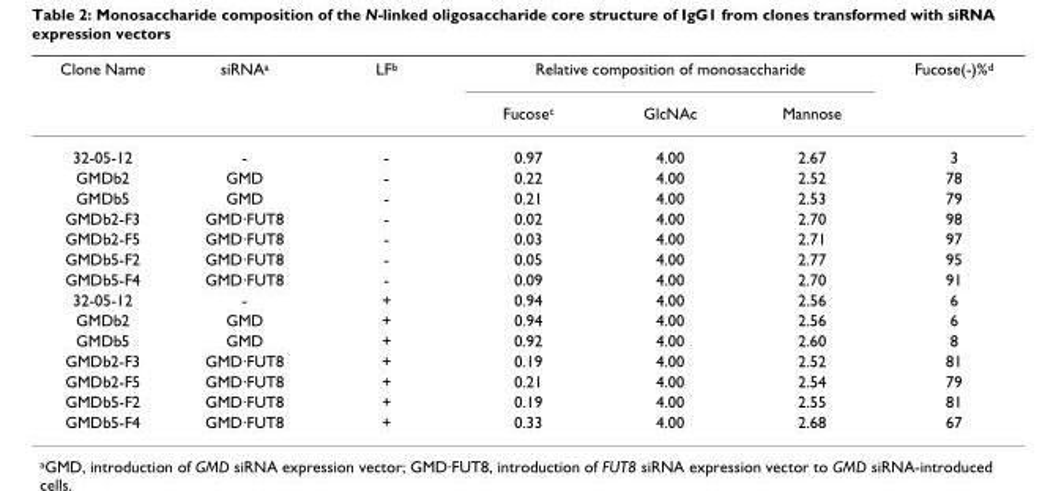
<table><thead><tr><td rowspan="2">Clone Name</td><td rowspan="2">siRNA<sup>a</sup></td><td rowspan="2">LF<sup>b</sup></td><td colspan="3">Relative composition of monosaccharide</td><td rowspan="2">Fucose(-)%<sup>d</sup></td></tr><tr><td>Fucose<sup>c</sup></td><td>GlcNAc</td><td>Mannose</td></tr></thead><tbody><tr><td>32-05-12</td><td>-</td><td>-</td><td>0.97</td><td>4.00</td><td>2.67</td><td>3</td></tr><tr><td>GMDb2</td><td>GMD</td><td>-</td><td>0.22</td><td>4.00</td><td>2.52</td><td>78</td></tr><tr><td>GMDb5</td><td>GMD</td><td>-</td><td>0.21</td><td>4.00</td><td>2.53</td><td>79</td></tr><tr><td>GMDb2-F3</td><td>GMD·FUT8</td><td>-</td><td>0.02</td><td>4.00</td><td>2.70</td><td>98</td></tr><tr><td>GMDb2-F5</td><td>GMD·FUT8</td><td>-</td><td>0.03</td><td>4.00</td><td>2.71</td><td>97</td></tr><tr><td>GMDb5-F2</td><td>GMD·FUT8</td><td>-</td><td>0.05</td><td>4.00</td><td>2.77</td><td>95</td></tr><tr><td>GMDb5-F4</td><td>GMD·FUT8</td><td>-</td><td>0.09</td><td>4.00</td><td>2.70</td><td>91</td></tr><tr><td>32-05-12</td><td>-</td><td>+</td><td>0.94</td><td>4.00</td><td>2.56</td><td>6</td></tr><tr><td>GMDb2</td><td>GMD</td><td>+</td><td>0.94</td><td>4.00</td><td>2.56</td><td>6</td></tr><tr><td>GMDb5</td><td>GMD</td><td>+</td><td>0.92</td><td>4.00</td><td>2.60</td><td>8</td></tr><tr><td>GMDb2-F3</td><td>GMD·FUT8</td><td>+</td><td>0.19</td><td>4.00</td><td>2.52</td><td>81</td></tr><tr><td>GMDb2-F5</td><td>GMD·FUT8</td><td>+</td><td>0.21</td><td>4.00</td><td>2.54</td><td>79</td></tr><tr><td>GMDb5-F2</td><td>GMD·FUT8</td><td>+</td><td>0.19</td><td>4.00</td><td>2.55</td><td>81</td></tr><tr><td>GMDb5-F4</td><td>GMD·FUT8</td><td>+</td><td>0.33</td><td>4.00</td><td>2.68</td><td>67</td></tr></tbody></table>